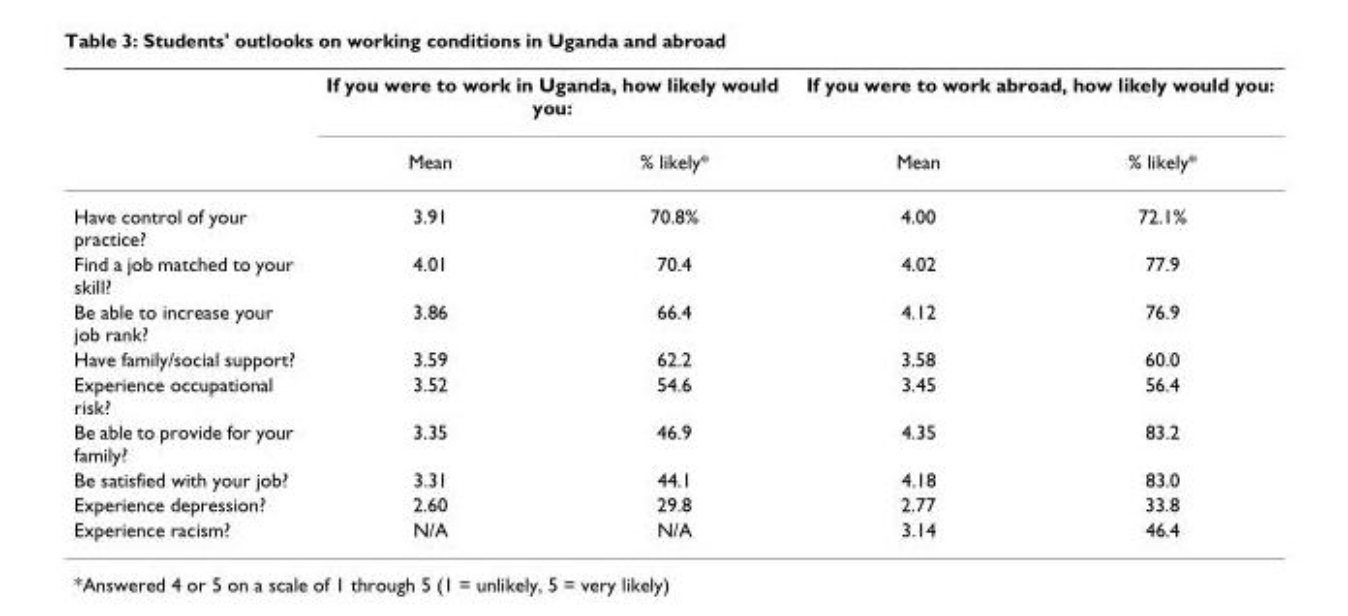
<table><thead><tr><td rowspan="2"></td><td colspan="2">If you were to work in Uganda, how likely would you:</td><td colspan="2">If you were to work abroad, how likely would you:</td></tr><tr><td>Mean</td><td>% likely*</td><td>Mean</td><td>% likely*</td></tr></thead><tbody><tr><td>Have control of your practice?</td><td>3.91</td><td>70.8%</td><td>4.00</td><td>72.1%</td></tr><tr><td>Find a job matched to your skill?</td><td>4.01</td><td>70.4</td><td>4.02</td><td>77.9</td></tr><tr><td>Be able to increase your job rank?</td><td>3.86</td><td>66.4</td><td>4.12</td><td>76.9</td></tr><tr><td>Have family/social support?</td><td>3.59</td><td>62.2</td><td>3.58</td><td>60.0</td></tr><tr><td>Experience occupational risk?</td><td>3.52</td><td>54.6</td><td>3.45</td><td>56.4</td></tr><tr><td>Be able to provide for your family?</td><td>3.35</td><td>46.9</td><td>4.35</td><td>83.2</td></tr><tr><td>Be satisfied with your job?</td><td>3.31</td><td>44.1</td><td>4.18</td><td>83.0</td></tr><tr><td>Experience depression?</td><td>2.60</td><td>29.8</td><td>2.77</td><td>33.8</td></tr><tr><td>Experience racism?</td><td>N/A</td><td>N/A</td><td>3.14</td><td>46.4</td></tr></tbody></table>